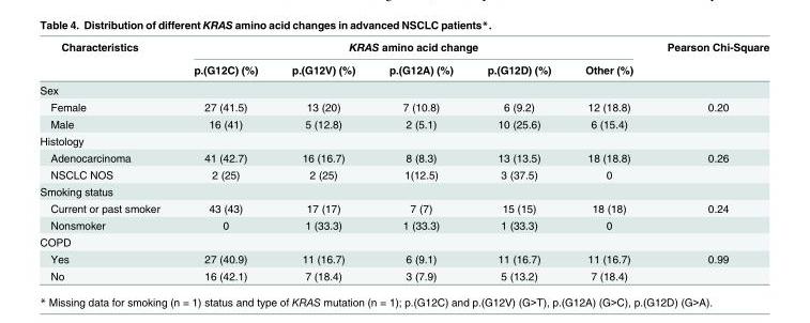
<table><thead><tr><td rowspan="2">Characteristics</td><td colspan="5">KRAS amino acid change</td><td rowspan="2">Pearson Chi-Square</td></tr><tr><td>p.(G12C) (%)</td><td>p.(G12V) (%)</td><td>p.(G12A) (%)</td><td>p.(G12D) (%)</td><td>Other (%)</td></tr></thead><tbody><tr><td colspan="7">Sex</td></tr><tr><td>Female</td><td>27 (41.5)</td><td>13 (20)</td><td>7 (10.8)</td><td>6 (9.2)</td><td>12 (18.8)</td><td>0.20</td></tr><tr><td>Male</td><td>16 (41)</td><td>5 (12.8)</td><td>2 (5.1)</td><td>10 (25.6)</td><td>6 (15.4)</td><td></td></tr><tr><td colspan="7">Histology</td></tr><tr><td>Adenocarcinoma</td><td>41 (42.7)</td><td>16 (16.7)</td><td>8 (8.3)</td><td>13 (13.5)</td><td>18 (18.8)</td><td>0.26</td></tr><tr><td>NSCLC NOS</td><td>2 (25)</td><td>2 (25)</td><td>1(12.5)</td><td>3 (37.5)</td><td>0</td><td></td></tr><tr><td colspan="7">Smoking status</td></tr><tr><td>Current or past smoker</td><td>43 (43)</td><td>17 (17)</td><td>7 (7)</td><td>15 (15)</td><td>18 (18)</td><td>0.24</td></tr><tr><td>Nonsmoker</td><td>0</td><td>1 (33.3)</td><td>1 (33.3)</td><td>1 (33.3)</td><td>0</td><td></td></tr><tr><td colspan="7">COPD</td></tr><tr><td>Yes</td><td>27 (40.9)</td><td>11 (16.7)</td><td>6 (9.1)</td><td>11 (16.7)</td><td>11 (16.7)</td><td>0.99</td></tr><tr><td>No</td><td>16 (42.1)</td><td>7 (18.4)</td><td>3 (7.9)</td><td>5 (13.2)</td><td>7 (18.4)</td><td></td></tr></tbody></table>